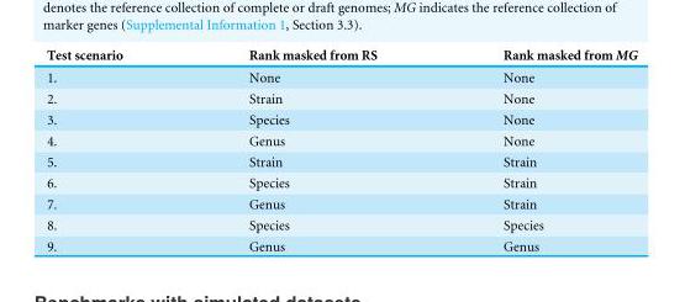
<table><thead><tr><td>Test scenario</td><td>Rank masked from RS</td><td>Rank masked from MG</td></tr></thead><tbody><tr><td>1.</td><td>None</td><td>None</td></tr><tr><td>2.</td><td>Strain</td><td>None</td></tr><tr><td>3.</td><td>Species</td><td>None</td></tr><tr><td>4.</td><td>Genus</td><td>None</td></tr><tr><td>5.</td><td>Strain</td><td>Strain</td></tr><tr><td>6.</td><td>Species</td><td>Strain</td></tr><tr><td>7.</td><td>Genus</td><td>Strain</td></tr><tr><td>8.</td><td>Species</td><td>Species</td></tr><tr><td>9.</td><td>Genus</td><td>Genus</td></tr></tbody></table>